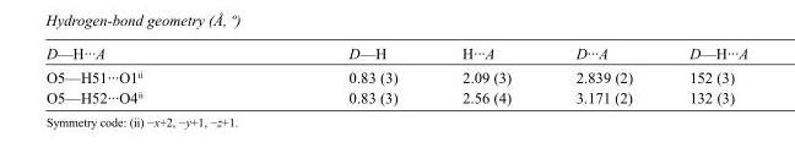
<table><tbody><tr><td>D—H···A</td><td>D—H</td><td>H···A</td><td>D···A</td><td>D—H···A</td></tr><tr><td>O5—H51···O1<sup>ii</sup></td><td>0.83 (3)</td><td>2.09 (3)</td><td>2.839 (2)</td><td>152 (3)</td></tr><tr><td>O5—H52···O4<sup>ii</sup></td><td>0.83 (3)</td><td>2.56 (4)</td><td>3.171 (2)</td><td>132 (3)</td></tr></tbody></table>